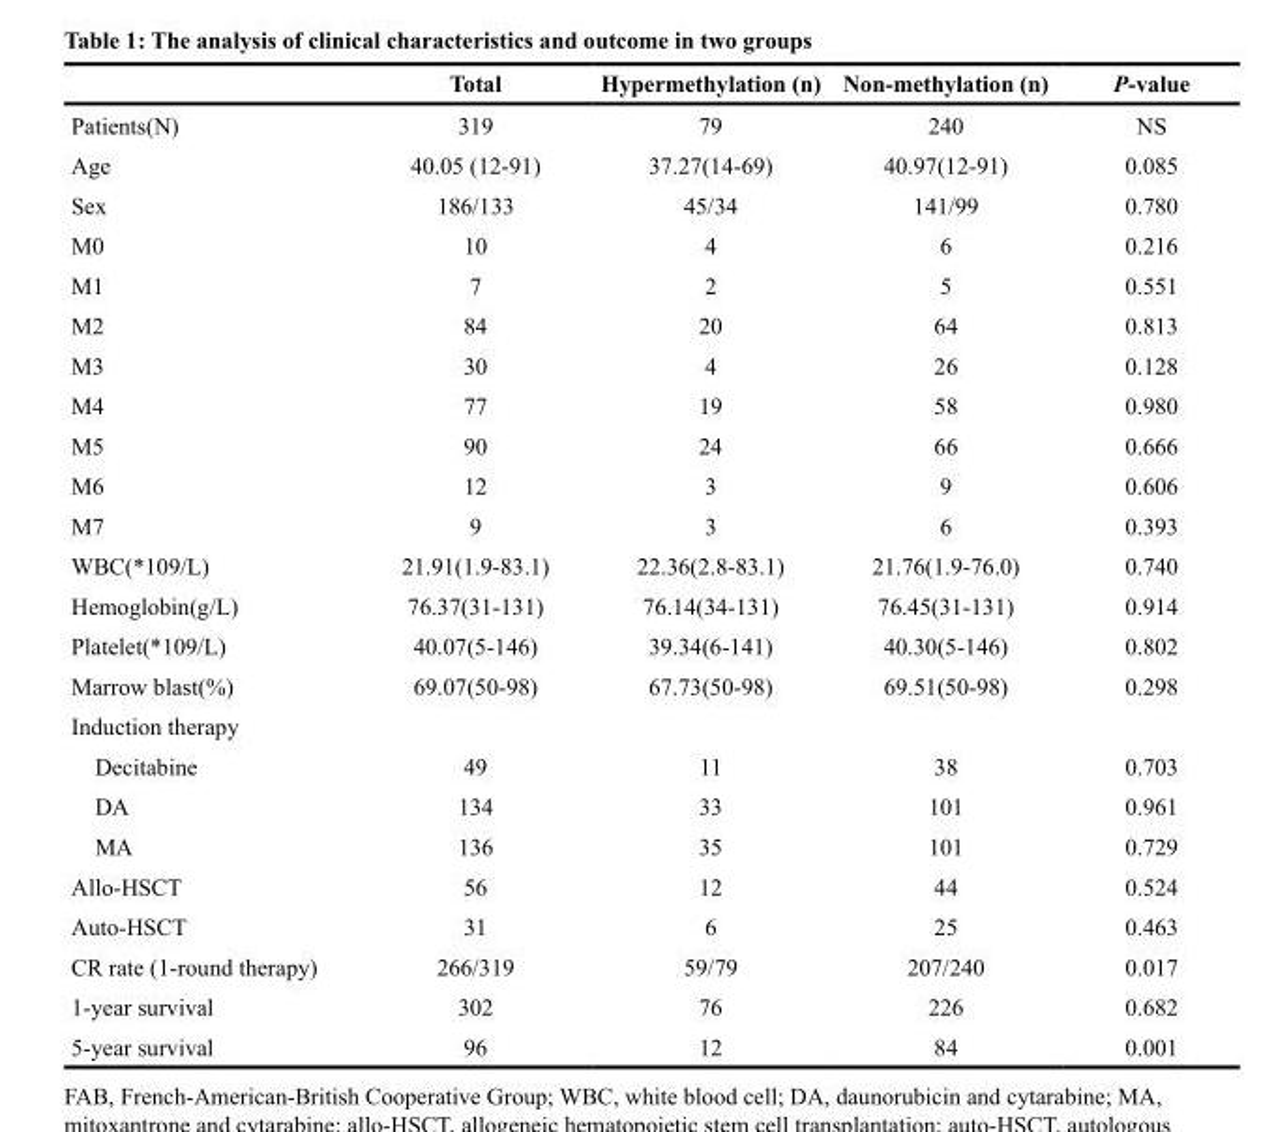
<table><thead><tr><td></td><td>Total</td><td>Hypermethylation (n)</td><td>Non-methylation (n)</td><td>P-value</td></tr></thead><tbody><tr><td>Patients(N)</td><td>319</td><td>79</td><td>240</td><td>NS</td></tr><tr><td>Age</td><td>40.05 (12-91)</td><td>37.27(14-69)</td><td>40.97(12-91)</td><td>0.085</td></tr><tr><td>Sex</td><td>186/133</td><td>45/34</td><td>141/99</td><td>0.780</td></tr><tr><td>M0</td><td>10</td><td>4</td><td>6</td><td>0.216</td></tr><tr><td>M1</td><td>7</td><td>2</td><td>5</td><td>0.551</td></tr><tr><td>M2</td><td>84</td><td>20</td><td>64</td><td>0.813</td></tr><tr><td>M3</td><td>30</td><td>4</td><td>26</td><td>0.128</td></tr><tr><td>M4</td><td>77</td><td>19</td><td>58</td><td>0.980</td></tr><tr><td>M5</td><td>90</td><td>24</td><td>66</td><td>0.666</td></tr><tr><td>M6</td><td>12</td><td>3</td><td>9</td><td>0.606</td></tr><tr><td>M7</td><td>9</td><td>3</td><td>6</td><td>0.393</td></tr><tr><td>WBC(*109/L)</td><td>21.91(1.9-83.1)</td><td>22.36(2.8-83.1)</td><td>21.76(1.9-76.0)</td><td>0.740</td></tr><tr><td>Hemoglobin(g/L)</td><td>76.37(31-131)</td><td>76.14(34-131)</td><td>76.45(31-131)</td><td>0.914</td></tr><tr><td>Platelet(*109/L)</td><td>40.07(5-146)</td><td>39.34(6-141)</td><td>40.30(5-146)</td><td>0.802</td></tr><tr><td>Marrow blast(%)</td><td>69.07(50-98)</td><td>67.73(50-98)</td><td>69.51(50-98)</td><td>0.298</td></tr><tr><td colspan="5">Induction therapy</td></tr><tr><td>Decitabine</td><td>49</td><td>11</td><td>38</td><td>0.703</td></tr><tr><td>DA</td><td>134</td><td>33</td><td>101</td><td>0.961</td></tr><tr><td>MA</td><td>136</td><td>35</td><td>101</td><td>0.729</td></tr><tr><td>Allo-HSCT</td><td>56</td><td>12</td><td>44</td><td>0.524</td></tr><tr><td>Auto-HSCT</td><td>31</td><td>6</td><td>25</td><td>0.463</td></tr><tr><td>CR rate (1-round therapy)</td><td>266/319</td><td>59/79</td><td>207/240</td><td>0.017</td></tr><tr><td>1-year survival</td><td>302</td><td>76</td><td>226</td><td>0.682</td></tr><tr><td>5-year survival</td><td>96</td><td>12</td><td>84</td><td>0.001</td></tr></tbody></table>